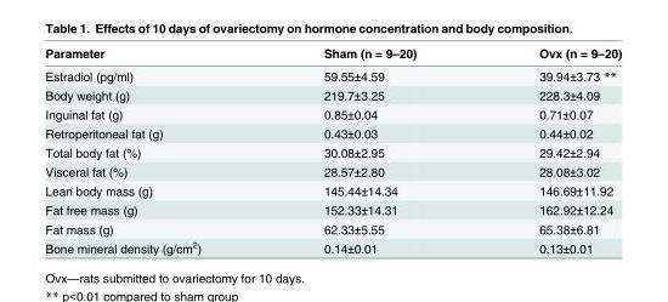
<table><thead><tr><td>Parameter</td><td>Sham (n = 9–20)</td><td>Ovx (n = 9–20)</td></tr></thead><tbody><tr><td>Estradiol (pg/ml)</td><td>59.55±4.59</td><td>39.94±3.73 **</td></tr><tr><td>Body weight (g)</td><td>219.7±3.25</td><td>228.3±4.09</td></tr><tr><td>Inguinal fat (g)</td><td>0.85±0.04</td><td>0.71±0.07</td></tr><tr><td>Retroperitoneal fat (g)</td><td>0.43±0.03</td><td>0.44±0.02</td></tr><tr><td>Total body fat (%)</td><td>30.08±2.95</td><td>29.42±2.94</td></tr><tr><td>Visceral fat (%)</td><td>28.57±2.80</td><td>28.08±3.02</td></tr><tr><td>Lean body mass (g)</td><td>145.44±14.34</td><td>146.69±11.92</td></tr><tr><td>Fat free mass (g)</td><td>152.33±14.31</td><td>162.92±12.24</td></tr><tr><td>Fat mass (g)</td><td>62.33±5.55</td><td>65.38±6.81</td></tr><tr><td>Bone mineral density (g/cm<sup>2</sup>)</td><td>0.14±0.01</td><td>0.13±0.01</td></tr></tbody></table>